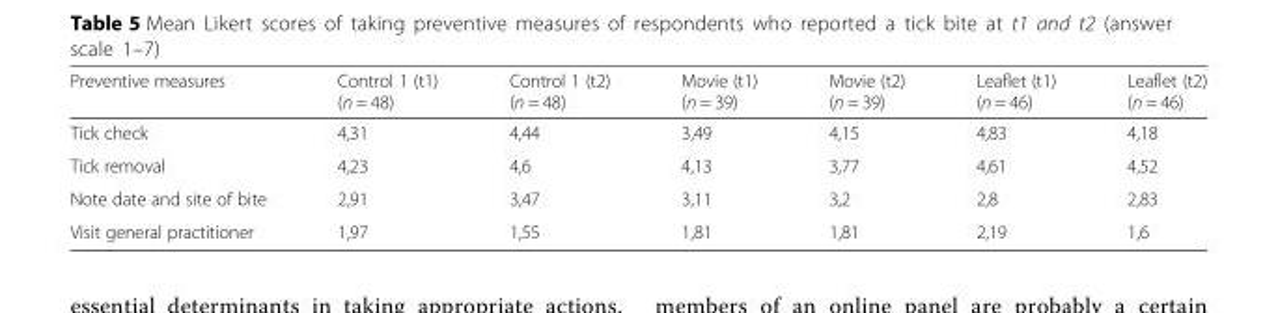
<table><thead><tr><td>Preventive measures</td><td>Control 1 (t1) (n = 48)</td><td>Control 1 (t2) (n = 48)</td><td>Movie (t1) (n = 39)</td><td>Movie (t2) (n = 39)</td><td>Leaflet (t1) (n = 46)</td><td>Leaflet (t2) (n = 46)</td></tr></thead><tbody><tr><td>Tick check</td><td>4,31</td><td>4,44</td><td>3,49</td><td>4,15</td><td>4,83</td><td>4,18</td></tr><tr><td>Tick removal</td><td>4,23</td><td>4,6</td><td>4,13</td><td>3,77</td><td>4,61</td><td>4,52</td></tr><tr><td>Note date and site of bite</td><td>2,91</td><td>3,47</td><td>3,11</td><td>3,2</td><td>2,8</td><td>2,83</td></tr><tr><td>Visit general practitioner</td><td>1,97</td><td>1,55</td><td>1,81</td><td>1,81</td><td>2,19</td><td>1,6</td></tr></tbody></table>